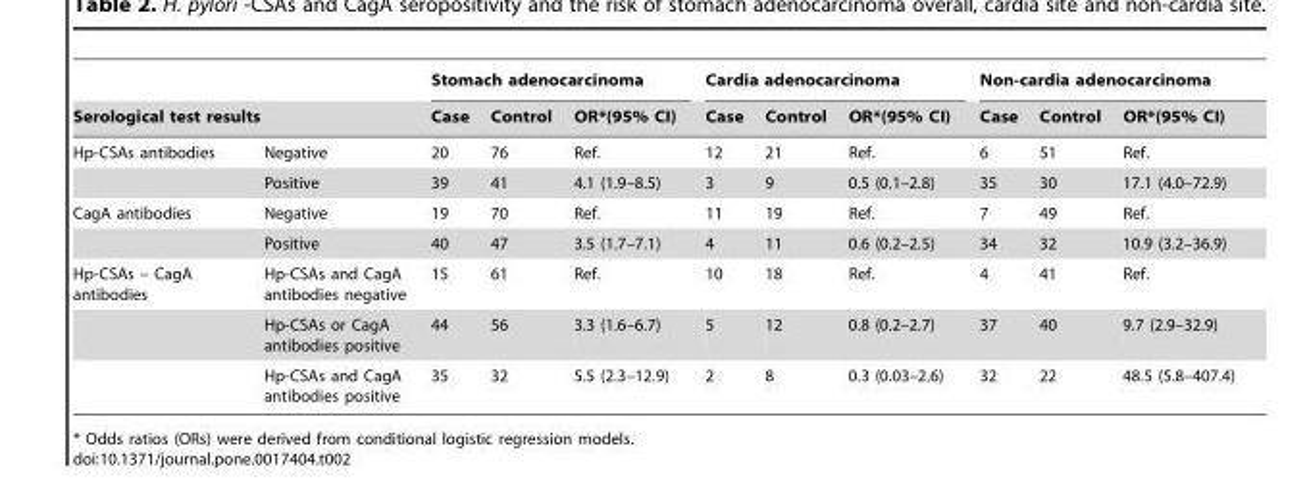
<table><thead><tr><td></td><td></td><td colspan="3">Stomach adenocarcinoma</td><td colspan="3">Cardia adenocarcinoma</td><td colspan="3">Non-cardia adenocarcinoma</td></tr><tr><td colspan="2">Serological test results</td><td>Case</td><td>Control</td><td>OR*(95% CI)</td><td>Case</td><td>Control</td><td>OR*(95% CI)</td><td>Case</td><td>Control</td><td>OR*(95% CI)</td></tr></thead><tbody><tr><td rowspan="2">Hp-CSAs antibodies</td><td>Negative</td><td>20</td><td>76</td><td>Ref.</td><td>12</td><td>21</td><td>Ref.</td><td>6</td><td>51</td><td>Ref.</td></tr><tr><td>Positive</td><td>39</td><td>41</td><td>4.1 (1.9–8.5)</td><td>3</td><td>9</td><td>0.5 (0.1–2.8)</td><td>35</td><td>30</td><td>17.1 (4.0–72.9)</td></tr><tr><td rowspan="2">CagA antibodies</td><td>Negative</td><td>19</td><td>70</td><td>Ref.</td><td>11</td><td>19</td><td>Ref.</td><td>7</td><td>49</td><td>Ref.</td></tr><tr><td>Positive</td><td>40</td><td>47</td><td>3.5 (1.7–7.1)</td><td>4</td><td>11</td><td>0.6 (0.2–2.5)</td><td>34</td><td>32</td><td>10.9 (3.2–36.9)</td></tr><tr><td rowspan="3">Hp-CSAs – CagA antibodies</td><td>Hp-CSAs and CagA antibodies negative</td><td>15</td><td>61</td><td>Ref.</td><td>10</td><td>18</td><td>Ref.</td><td>4</td><td>41</td><td>Ref.</td></tr><tr><td>Hp-CSAs or CagA antibodies positive</td><td>44</td><td>56</td><td>3.3 (1.6–6.7)</td><td>5</td><td>12</td><td>0.8 (0.2–2.7)</td><td>37</td><td>40</td><td>9.7 (2.9–32.9)</td></tr><tr><td>Hp-CSAs and CagA antibodies positive</td><td>35</td><td>32</td><td>5.5 (2.3–12.9)</td><td>2</td><td>8</td><td>0.3 (0.03–2.6)</td><td>32</td><td>22</td><td>48.5 (5.8–407.4)</td></tr></tbody></table>